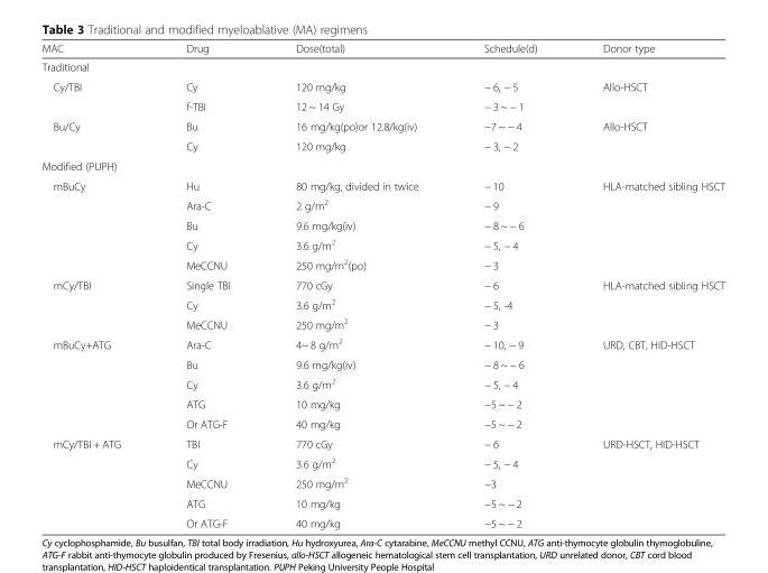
<table><thead><tr><td>MAC</td><td>Drug</td><td>Dose(total)</td><td>Schedule(d)</td><td>Donor type</td></tr></thead><tbody><tr><td colspan="5">Traditional</td></tr><tr><td rowspan="2">Cy/TBI</td><td>Cy</td><td>120 mg/kg</td><td>− 6, − 5</td><td rowspan="2">Allo-HSCT</td></tr><tr><td>f-TBI</td><td>12 ~ 14 Gy</td><td>− 3 ~ − 1</td></tr><tr><td rowspan="2">Bu/Cy</td><td>Bu</td><td>16 mg/kg(po)or 12.8/kg(iv)</td><td>−7 ~ − 4</td><td rowspan="2">Allo-HSCT</td></tr><tr><td>Cy</td><td>120 mg/kg</td><td>− 3, − 2</td></tr><tr><td colspan="5">Modified (PUPH)</td></tr><tr><td rowspan="5">mBuCy</td><td>Hu</td><td>80 mg/kg, divided in twice</td><td>− 10</td><td rowspan="5">HLA-matched sibling HSCT</td></tr><tr><td>Ara-C</td><td>2 g/m<sup>2</sup></td><td>− 9</td></tr><tr><td>Bu</td><td>9.6 mg/kg(iv)</td><td>− 8 ~ − 6</td></tr><tr><td>Cy</td><td>3.6 g/m<sup>2</sup></td><td>− 5, − 4</td></tr><tr><td>MeCCNU</td><td>250 mg/m<sup>2</sup>(po)</td><td>− 3</td></tr><tr><td rowspan="3">mCy/TBI</td><td>Single TBI</td><td>770 cGy</td><td>− 6</td><td rowspan="3">HLA-matched sibling HSCT</td></tr><tr><td>Cy</td><td>3.6 g/m<sup>2</sup></td><td>− 5, -4</td></tr><tr><td>MeCCNU</td><td>250 mg/m<sup>2</sup></td><td>− 3</td></tr><tr><td rowspan="5">mBuCy+ATG</td><td>Ara-C</td><td>4~ 8 g/m<sup>2</sup></td><td>− 10, − 9</td><td rowspan="5">URD, CBT, HID-HSCT</td></tr><tr><td>Bu</td><td>9.6 mg/kg(iv)</td><td>− 8 ~ − 6</td></tr><tr><td>Cy</td><td>3.6 g/m<sup>2</sup></td><td>− 5, − 4</td></tr><tr><td>ATG</td><td>10 mg/kg</td><td>−5 ~ − 2</td></tr><tr><td>Or ATG-F</td><td>40 mg/kg</td><td>−5 ~ − 2</td></tr><tr><td rowspan="5">mCy/TBI + ATG</td><td>TBI</td><td>770 cGy</td><td>− 6</td><td rowspan="5">URD-HSCT, HID-HSCT</td></tr><tr><td>Cy</td><td>3.6 g/m<sup>2</sup></td><td>− 5, − 4</td></tr><tr><td>MeCCNU</td><td>250 mg/m<sup>2</sup></td><td>−3</td></tr><tr><td>ATG</td><td>10 mg/kg</td><td>−5 ~ − 2</td></tr><tr><td>Or ATG-F</td><td>40 mg/kg</td><td>−5 ~ − 2</td></tr></tbody></table>